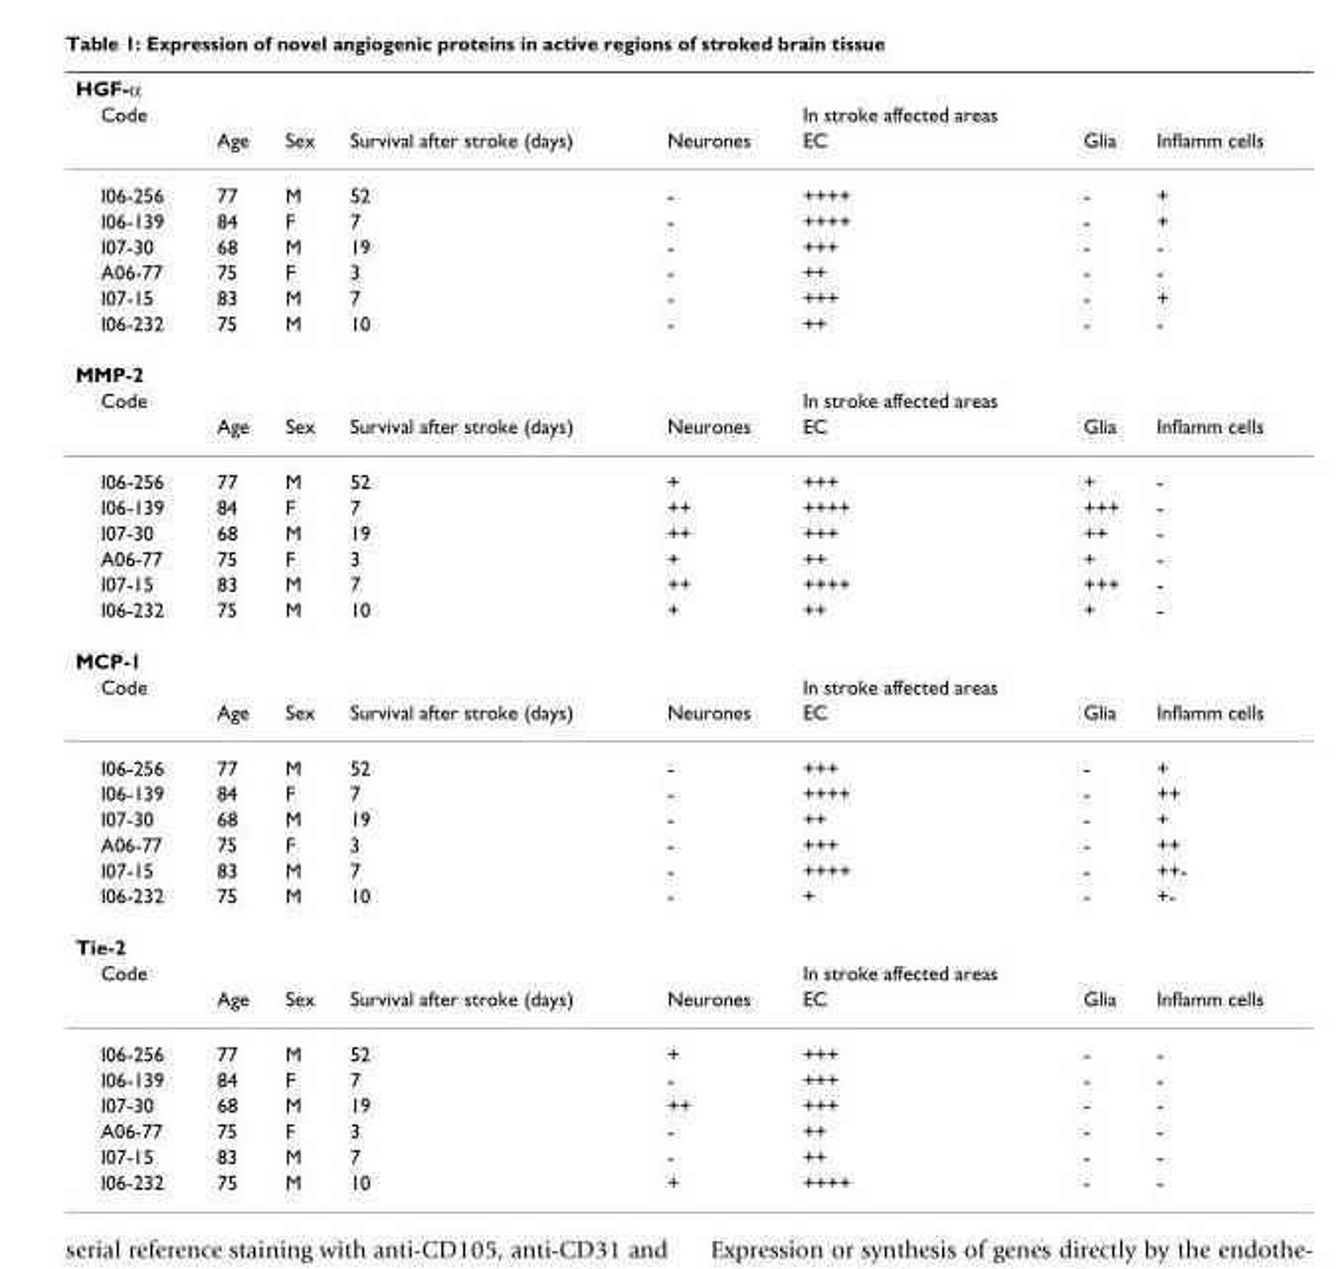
<table><thead><tr><td rowspan="3">HGF-α Code</td><td rowspan="3">Age</td><td rowspan="3">Sex</td><td rowspan="3">Survival after stroke (days)</td><td rowspan="3">Neurones</td><td rowspan="3">In stroke affected areas EC</td><td rowspan="3">Glia</td><td rowspan="3">Inflamm cells</td></tr><tr></tr><tr></tr></thead><tbody><tr><td>I06-256</td><td>77</td><td>M</td><td>52</td><td>-</td><td>++++</td><td>-</td><td>+</td></tr><tr><td>I06-139</td><td>84</td><td>F</td><td>7</td><td>-</td><td>++++</td><td>-</td><td>+</td></tr><tr><td>I07-30</td><td>68</td><td>M</td><td>19</td><td>-</td><td>+++</td><td>-</td><td>-</td></tr><tr><td>A06-77</td><td>75</td><td>F</td><td>3</td><td>-</td><td>++</td><td>-</td><td>-</td></tr><tr><td>I07-15</td><td>83</td><td>M</td><td>7</td><td>-</td><td>+++</td><td>-</td><td>+</td></tr><tr><td>I06-232</td><td>75</td><td>M</td><td>10</td><td>-</td><td>++</td><td>-</td><td>-</td></tr><tr><td colspan="8">MMP-2</td></tr><tr><td rowspan="2">Code</td><td></td><td></td><td></td><td></td><td>In stroke affected areas</td><td></td><td></td></tr><tr><td>Age</td><td>Sex</td><td>Survival after stroke (days)</td><td>Neurones</td><td>EC</td><td>Glia</td><td>Inflamm cells</td></tr><tr><td>I06-256</td><td>77</td><td>M</td><td>52</td><td>+</td><td>+++</td><td>+</td><td>-</td></tr><tr><td>I06-139</td><td>84</td><td>F</td><td>7</td><td>++</td><td>++++</td><td>+++</td><td>-</td></tr><tr><td>I07-30</td><td>68</td><td>M</td><td>19</td><td>++</td><td>+++</td><td>++</td><td>-</td></tr><tr><td>A06-77</td><td>75</td><td>F</td><td>3</td><td>+</td><td>++</td><td>+</td><td>-</td></tr><tr><td>I07-15</td><td>83</td><td>M</td><td>7</td><td>++</td><td>++++</td><td>+++</td><td>-</td></tr><tr><td>I06-232</td><td>75</td><td>M</td><td>10</td><td>+</td><td>++</td><td>+</td><td>-</td></tr><tr><td colspan="8">MCP-1</td></tr><tr><td rowspan="2">Code</td><td></td><td></td><td></td><td></td><td>In stroke affected areas</td><td></td><td></td></tr><tr><td>Age</td><td>Sex</td><td>Survival after stroke (days)</td><td>Neurones</td><td>EC</td><td>Glia</td><td>Inflamm cells</td></tr><tr><td>I06-256</td><td>77</td><td>M</td><td>52</td><td>-</td><td>+++</td><td>-</td><td>+</td></tr><tr><td>I06-139</td><td>84</td><td>F</td><td>7</td><td>-</td><td>++++</td><td>-</td><td>++</td></tr><tr><td>I07-30</td><td>68</td><td>M</td><td>19</td><td>-</td><td>++</td><td>-</td><td>+</td></tr><tr><td>A06-77</td><td>75</td><td>F</td><td>3</td><td>-</td><td>+++</td><td>-</td><td>++</td></tr><tr><td>I07-15</td><td>83</td><td>M</td><td>7</td><td>-</td><td>++++</td><td>-</td><td>++-</td></tr><tr><td>I06-232</td><td>75</td><td>M</td><td>10</td><td>-</td><td>+</td><td>-</td><td>+-</td></tr><tr><td colspan="8">Tie-2</td></tr><tr><td rowspan="2">Code</td><td></td><td></td><td></td><td></td><td>In stroke affected areas</td><td></td><td></td></tr><tr><td>Age</td><td>Sex</td><td>Survival after stroke (days)</td><td>Neurones</td><td>EC</td><td>Glia</td><td>Inflamm cells</td></tr><tr><td>I06-256</td><td>77</td><td>M</td><td>52</td><td>+</td><td>+++</td><td>-</td><td>-</td></tr><tr><td>I06-139</td><td>84</td><td>F</td><td>7</td><td>-</td><td>+++</td><td>-</td><td>-</td></tr><tr><td>I07-30</td><td>68</td><td>M</td><td>19</td><td>++</td><td>+++</td><td>-</td><td>-</td></tr><tr><td>A06-77</td><td>75</td><td>F</td><td>3</td><td>-</td><td>++</td><td>-</td><td>-</td></tr><tr><td>I07-15</td><td>83</td><td>M</td><td>7</td><td>-</td><td>++</td><td>-</td><td>-</td></tr><tr><td>I06-232</td><td>75</td><td>M</td><td>10</td><td>+</td><td>++++</td><td>-</td><td>-</td></tr></tbody></table>